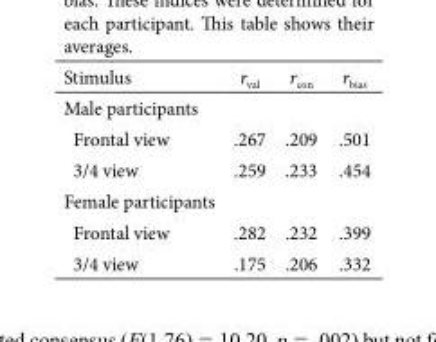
<table><thead><tr><td>Stimulus</td><td>r<sub>val</sub></td><td>r<sub>con</sub></td><td>r<sub>bias</sub></td></tr></thead><tbody><tr><td colspan="4">Male participants</td></tr><tr><td>Frontal view</td><td>.267</td><td>.209</td><td>.501</td></tr><tr><td>3/4 view</td><td>.259</td><td>.233</td><td>.454</td></tr><tr><td colspan="4">Female participants</td></tr><tr><td>Frontal view</td><td>.282</td><td>.232</td><td>.399</td></tr><tr><td>3/4 view</td><td>.175</td><td>.206</td><td>.332</td></tr></tbody></table>